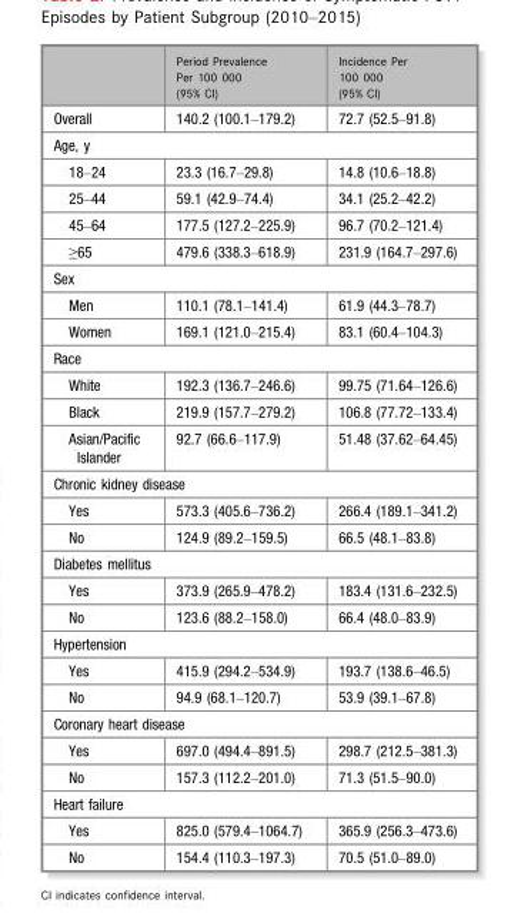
<table><thead><tr><td></td><td>Period Prevalence Per 100 000 (95% CI)</td><td>Incidence Per 100 000 (95% CI)</td></tr></thead><tbody><tr><td>Overall</td><td>140.2 (100.1–179.2)</td><td>72.7 (52.5–91.8)</td></tr><tr><td colspan="3">Age, y</td></tr><tr><td>18–24</td><td>23.3 (16.7–29.8)</td><td>14.8 (10.6–18.8)</td></tr><tr><td>25–44</td><td>59.1 (42.9–74.4)</td><td>34.1 (25.2–42.2)</td></tr><tr><td>45–64</td><td>177.5 (127.2–225.9)</td><td>96.7 (70.2–121.4)</td></tr><tr><td>≥65</td><td>479.6 (338.3–618.9)</td><td>231.9 (164.7–297.6)</td></tr><tr><td colspan="3">Sex</td></tr><tr><td>Men</td><td>110.1 (78.1–141.4)</td><td>61.9 (44.3–78.7)</td></tr><tr><td>Women</td><td>169.1 (121.0–215.4)</td><td>83.1 (60.4–104.3)</td></tr><tr><td colspan="3">Race</td></tr><tr><td>White</td><td>192.3 (136.7–246.6)</td><td>99.75 (71.64–126.6)</td></tr><tr><td>Black</td><td>219.9 (157.7–279.2)</td><td>106.8 (77.72–133.4)</td></tr><tr><td>Asian/Pacific Islander</td><td>92.7 (66.6–117.9)</td><td>51.48 (37.62–64.45)</td></tr><tr><td colspan="3">Chronic kidney disease</td></tr><tr><td>Yes</td><td>573.3 (405.6–736.2)</td><td>266.4 (189.1–341.2)</td></tr><tr><td>No</td><td>124.9 (89.2–159.5)</td><td>66.5 (48.1–83.8)</td></tr><tr><td colspan="3">Diabetes mellitus</td></tr><tr><td>Yes</td><td>373.9 (265.9–478.2)</td><td>183.4 (131.6–232.5)</td></tr><tr><td>No</td><td>123.6 (88.2–158.0)</td><td>66.4 (48.0–83.9)</td></tr><tr><td colspan="3">Hypertension</td></tr><tr><td>Yes</td><td>415.9 (294.2–534.9)</td><td>193.7 (138.6–46.5)</td></tr><tr><td>No</td><td>94.9 (68.1–120.7)</td><td>53.9 (39.1–67.8)</td></tr><tr><td colspan="3">Coronary heart disease</td></tr><tr><td>Yes</td><td>697.0 (494.4–891.5)</td><td>298.7 (212.5–381.3)</td></tr><tr><td>No</td><td>157.3 (112.2–201.0)</td><td>71.3 (51.5–90.0)</td></tr><tr><td colspan="3">Heart failure</td></tr><tr><td>Yes</td><td>825.0 (579.4–1064.7)</td><td>365.9 (256.3–473.6)</td></tr><tr><td>No</td><td>154.4 (110.3–197.3)</td><td>70.5 (51.0–89.0)</td></tr></tbody></table>